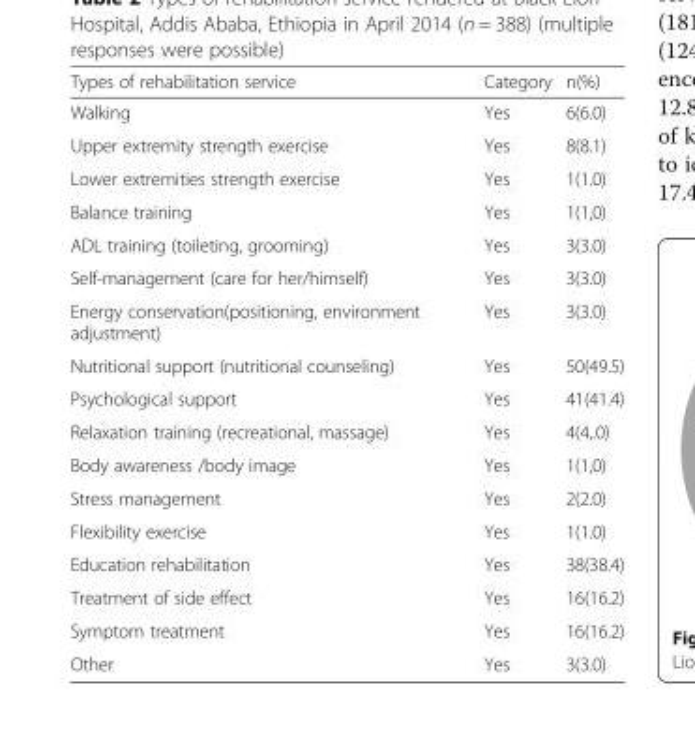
<table><thead><tr><td>Types of rehabilitation service</td><td>Category</td><td>n(%)</td></tr></thead><tbody><tr><td>Walking</td><td>Yes</td><td>6(6.0)</td></tr><tr><td>Upper extremity strength exercise</td><td>Yes</td><td>8(8.1)</td></tr><tr><td>Lower extremities strength exercise</td><td>Yes</td><td>1(1.0)</td></tr><tr><td>Balance training</td><td>Yes</td><td>1(1,0)</td></tr><tr><td>ADL training (toileting, grooming)</td><td>Yes</td><td>3(3.0)</td></tr><tr><td>Self-management (care for her/himself)</td><td>Yes</td><td>3(3.0)</td></tr><tr><td>Energy conservation(positioning, environment adjustment)</td><td>Yes</td><td>3(3.0)</td></tr><tr><td>Nutritional support (nutritional counseling)</td><td>Yes</td><td>50(49.5)</td></tr><tr><td>Psychological support</td><td>Yes</td><td>41(41.4)</td></tr><tr><td>Relaxation training (recreational, massage)</td><td>Yes</td><td>4(4,.0)</td></tr><tr><td>Body awareness /body image</td><td>Yes</td><td>1(1,0)</td></tr><tr><td>Stress management</td><td>Yes</td><td>2(2.0)</td></tr><tr><td>Flexibility exercise</td><td>Yes</td><td>1(1.0)</td></tr><tr><td>Education rehabilitation</td><td>Yes</td><td>38(38.4)</td></tr><tr><td>Treatment of side effect</td><td>Yes</td><td>16(16.2)</td></tr><tr><td>Symptom treatment</td><td>Yes</td><td>16(16.2)</td></tr><tr><td>Other</td><td>Yes</td><td>3(3.0)</td></tr></tbody></table>